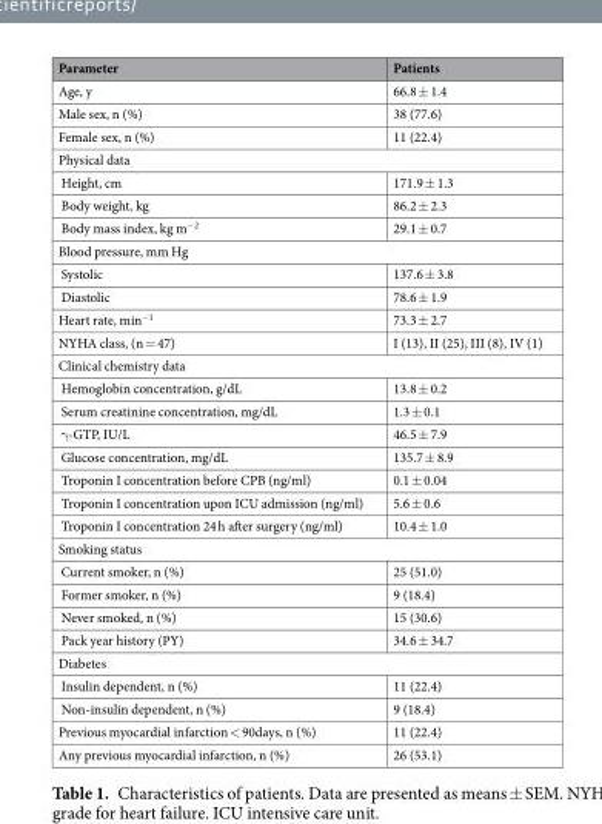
<table><thead><tr><td>Parameter</td><td>Patients</td></tr></thead><tbody><tr><td>Age, y</td><td>66.8 ± 1.4</td></tr><tr><td>Male sex, n (%)</td><td>38 (77.6)</td></tr><tr><td>Female sex, n (%)</td><td>11 (22.4)</td></tr><tr><td colspan="2">Physical data</td></tr><tr><td>Height, cm</td><td>171.9 ± 1.3</td></tr><tr><td>Body weight, kg</td><td>86.2 ± 2.3</td></tr><tr><td>Body mass index, kg m<sup>−2</sup></td><td>29.1 ± 0.7</td></tr><tr><td colspan="2">Blood pressure, mm Hg</td></tr><tr><td>Systolic</td><td>137.6 ± 3.8</td></tr><tr><td>Diastolic</td><td>78.6 ± 1.9</td></tr><tr><td>Heart rate, min<sup>−1</sup></td><td>73.3 ± 2.7</td></tr><tr><td>NYHA class, (n = 47)</td><td>I (13), II (25), III (8), IV (1)</td></tr><tr><td colspan="2">Clinical chemistry data</td></tr><tr><td>Hemoglobin concentration, g/dL</td><td>13.8 ± 0.2</td></tr><tr><td>Serum creatinine concentration, mg/dL</td><td>1.3 ± 0.1</td></tr><tr><td>γ-GTP, IU/L</td><td>46.5 ± 7.9</td></tr><tr><td>Glucose concentration, mg/dL</td><td>135.7 ± 8.9</td></tr><tr><td>Troponin I concentration before CPB (ng/ml)</td><td>0.1 ± 0.04</td></tr><tr><td>Troponin I concentration upon ICU admission (ng/ml)</td><td>5.6 ± 0.6</td></tr><tr><td>Troponin I concentration 24 h after surgery (ng/ml)</td><td>10.4 ± 1.0</td></tr><tr><td colspan="2">Smoking status</td></tr><tr><td>Current smoker, n (%)</td><td>25 (51.0)</td></tr><tr><td>Former smoker, n (%)</td><td>9 (18.4)</td></tr><tr><td>Never smoked, n (%)</td><td>15 (30.6)</td></tr><tr><td>Pack year history (PY)</td><td>34.6 ± 34.7</td></tr><tr><td colspan="2">Diabetes</td></tr><tr><td>Insulin dependent, n (%)</td><td>11 (22.4)</td></tr><tr><td>Non-insulin dependent, n (%)</td><td>9 (18.4)</td></tr><tr><td>Previous myocardial infarction &lt; 90days, n (%)</td><td>11 (22.4)</td></tr><tr><td>Any previous myocardial infarction, n (%)</td><td>26 (53.1)</td></tr></tbody></table>